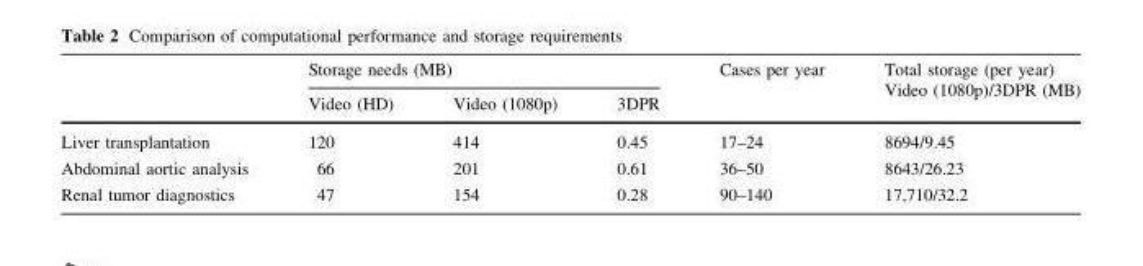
<table><thead><tr><td rowspan="2"></td><td colspan="3">Storage needs (MB)</td><td rowspan="2">Cases per year</td><td rowspan="2">Total storage (per year) Video (1080p)/3DPR (MB)</td></tr><tr><td>Video (HD)</td><td>Video (1080p)</td><td>3DPR</td></tr></thead><tbody><tr><td>Liver transplantation</td><td>120</td><td>414</td><td>0.45</td><td>17–24</td><td>8694/9.45</td></tr><tr><td>Abdominal aortic analysis</td><td>66</td><td>201</td><td>0.61</td><td>36–50</td><td>8643/26.23</td></tr><tr><td>Renal tumor diagnostics</td><td>47</td><td>154</td><td>0.28</td><td>90–140</td><td>17,710/32.2</td></tr></tbody></table>